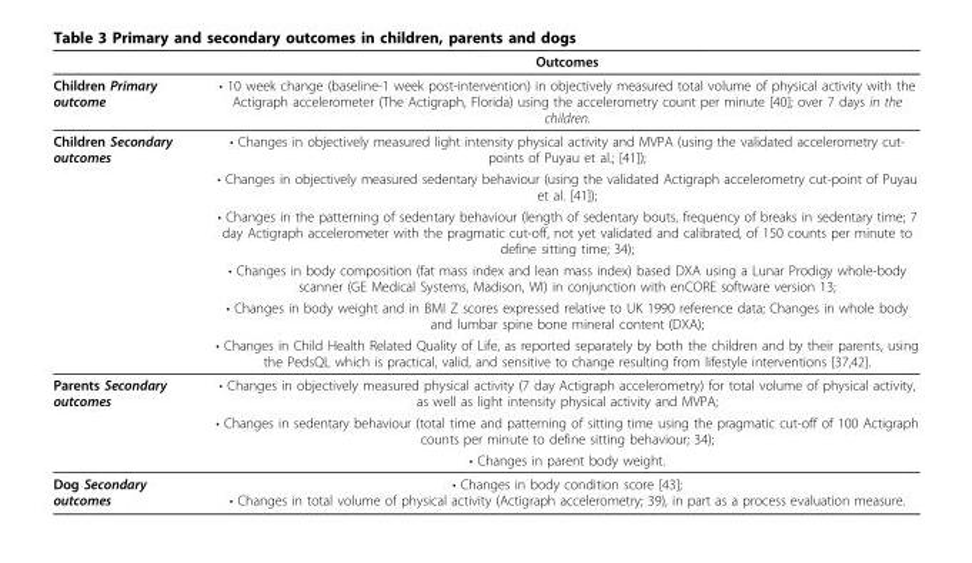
<table><thead><tr><td></td><td>Outcomes</td></tr></thead><tbody><tr><td>Children Primary outcome</td><td>• 10 week change (baseline-1 week post-intervention) in objectively measured total volume of physical activity with the Actigraph accelerometer (The Actigraph, Florida) using the accelerometry count per minute [40]; over 7 days in the children.</td></tr><tr><td rowspan="6">Children Secondary outcomes</td><td>• Changes in objectively measured light intensity physical activity and MVPA (using the validated accelerometry cut- points of Puyau et al.; [41]);</td></tr><tr><td>• Changes in objectively measured sedentary behaviour (using the validated Actigraph accelerometry cut-point of Puyau et al. [41]);</td></tr><tr><td>• Changes in the patterning of sedentary behaviour (length of sedentary bouts, frequency of breaks in sedentary time; 7 day Actigraph accelerometer with the pragmatic cut-off, not yet validated and calibrated, of 150 counts per minute to define sitting time; 34);</td></tr><tr><td>• Changes in body composition (fat mass index and lean mass index) based DXA using a Lunar Prodigy whole-body scanner (GE Medical Systems, Madison, WI) in conjunction with enCORE software version 13;</td></tr><tr><td>• Changes in body weight and in BMI Z scores expressed relative to UK 1990 reference data; Changes in whole body and lumbar spine bone mineral content (DXA);</td></tr><tr><td>• Changes in Child Health Related Quality of Life, as reported separately by both the children and by their parents, using the PedsQL which is practical, valid, and sensitive to change resulting from lifestyle interventions [37,42].</td></tr><tr><td rowspan="3">Parents Secondary outcomes</td><td>• Changes in objectively measured physical activity (7 day Actigraph accelerometry) for total volume of physical activity, as well as light intensity physical activity and MVPA;</td></tr><tr><td>• Changes in sedentary behaviour (total time and patterning of sitting time using the pragmatic cut-off of 100 Actigraph counts per minute to define sitting behaviour; 34);</td></tr><tr><td>• Changes in parent body weight.</td></tr><tr><td>Dog Secondary outcomes</td><td>• Changes in body condition score [43]; • Changes in total volume of physical activity (Actigraph accelerometry; 39), in part as a process evaluation measure.</td></tr></tbody></table>